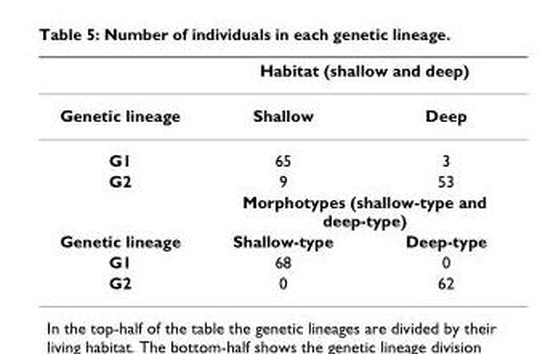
<table><thead><tr><td rowspan="2">Genetic lineage</td><td colspan="2">Habitat (shallow and deep)</td></tr><tr><td>Shallow</td><td>Deep</td></tr></thead><tbody><tr><td>G1</td><td>65</td><td>3</td></tr><tr><td rowspan="2">G2</td><td>9</td><td>53</td></tr><tr><td colspan="2">Morphotypes (shallow-type and deep-type)</td></tr><tr><td>Genetic lineage</td><td>Shallow-type</td><td>Deep-type</td></tr><tr><td>G1</td><td>68</td><td>0</td></tr><tr><td>G2</td><td>0</td><td>62</td></tr></tbody></table>